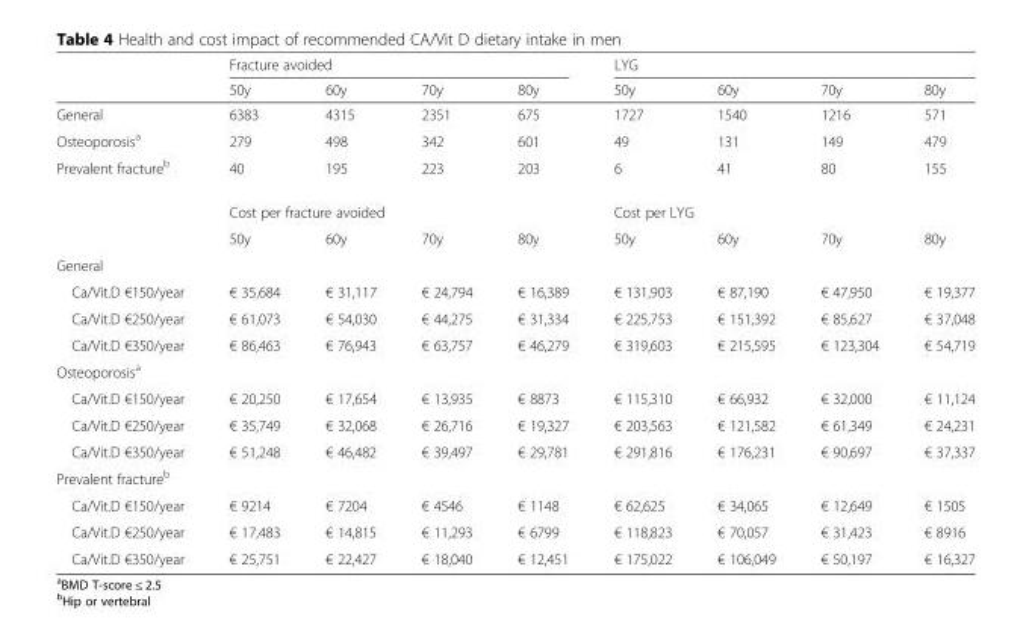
<table><thead><tr><td rowspan="2"></td><td colspan="4">Fracture avoided</td><td colspan="4">LYG</td></tr><tr><td>50y</td><td>60y</td><td>70y</td><td>80y</td><td>50y</td><td>60y</td><td>70y</td><td>80y</td></tr></thead><tbody><tr><td>General</td><td>6383</td><td>4315</td><td>2351</td><td>675</td><td>1727</td><td>1540</td><td>1216</td><td>571</td></tr><tr><td>Osteoporosis<sup>a</sup></td><td>279</td><td>498</td><td>342</td><td>601</td><td>49</td><td>131</td><td>149</td><td>479</td></tr><tr><td rowspan="3">Prevalent fracture<sup>b</sup></td><td>40</td><td>195</td><td>223</td><td>203</td><td>6</td><td>41</td><td>80</td><td>155</td></tr><tr><td colspan="4">Cost per fracture avoided</td><td colspan="4">Cost per LYG</td></tr><tr><td>50y</td><td>60y</td><td>70y</td><td>80y</td><td>50y</td><td>60y</td><td>70y</td><td>80y</td></tr><tr><td colspan="9">General</td></tr><tr><td>Ca/Vit.D €150/year</td><td>€ 35,684</td><td>€ 31,117</td><td>€ 24,794</td><td>€ 16,389</td><td>€ 131,903</td><td>€ 87,190</td><td>€ 47,950</td><td>€ 19,377</td></tr><tr><td>Ca/Vit.D €250/year</td><td>€ 61,073</td><td>€ 54,030</td><td>€ 44,275</td><td>€ 31,334</td><td>€ 225,753</td><td>€ 151,392</td><td>€ 85,627</td><td>€ 37,048</td></tr><tr><td>Ca/Vit.D €350/year</td><td>€ 86,463</td><td>€ 76,943</td><td>€ 63,757</td><td>€ 46,279</td><td>€ 319,603</td><td>€ 215,595</td><td>€ 123,304</td><td>€ 54,719</td></tr><tr><td colspan="9">Osteoporosis<sup>a</sup></td></tr><tr><td>Ca/Vit.D €150/year</td><td>€ 20,250</td><td>€ 17,654</td><td>€ 13,935</td><td>€ 8873</td><td>€ 115,310</td><td>€ 66,932</td><td>€ 32,000</td><td>€ 11,124</td></tr><tr><td>Ca/Vit.D €250/year</td><td>€ 35,749</td><td>€ 32,068</td><td>€ 26,716</td><td>€ 19,327</td><td>€ 203,563</td><td>€ 121,582</td><td>€ 61,349</td><td>€ 24,231</td></tr><tr><td>Ca/Vit.D €350/year</td><td>€ 51,248</td><td>€ 46,482</td><td>€ 39,497</td><td>€ 29,781</td><td>€ 291,816</td><td>€ 176,231</td><td>€ 90,697</td><td>€ 37,337</td></tr><tr><td colspan="9">Prevalent fracture<sup>b</sup></td></tr><tr><td>Ca/Vit.D €150/year</td><td>€ 9214</td><td>€ 7204</td><td>€ 4546</td><td>€ 1148</td><td>€ 62,625</td><td>€ 34,065</td><td>€ 12,649</td><td>€ 1505</td></tr><tr><td>Ca/Vit.D €250/year</td><td>€ 17,483</td><td>€ 14,815</td><td>€ 11,293</td><td>€ 6799</td><td>€ 118,823</td><td>€ 70,057</td><td>€ 31,423</td><td>€ 8916</td></tr><tr><td>Ca/Vit.D €350/year</td><td>€ 25,751</td><td>€ 22,427</td><td>€ 18,040</td><td>€ 12,451</td><td>€ 175,022</td><td>€ 106,049</td><td>€ 50,197</td><td>€ 16,327</td></tr></tbody></table>